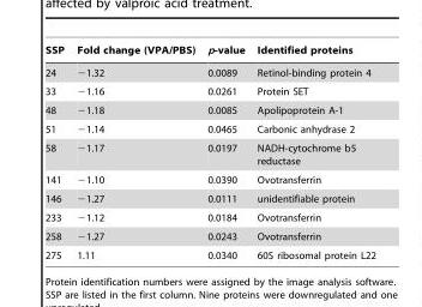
<table><thead><tr><td>SSP</td><td>Fold change (VPA/PBS)</td><td>p-value</td><td>Identified proteins</td></tr></thead><tbody><tr><td>24</td><td>−1.32</td><td>0.0089</td><td>Retinol-binding protein 4</td></tr><tr><td>33</td><td>−1.16</td><td>0.0261</td><td>Protein SET</td></tr><tr><td>48</td><td>−1.18</td><td>0.0085</td><td>Apolipoprotein A-1</td></tr><tr><td>51</td><td>−1.14</td><td>0.0465</td><td>Carbonic anhydrase 2</td></tr><tr><td>58</td><td>−1.17</td><td>0.0197</td><td>NADH-cytochrome b5 reductase</td></tr><tr><td>141</td><td>−1.10</td><td>0.0390</td><td>Ovotransferrin</td></tr><tr><td>146</td><td>−1.27</td><td>0.0111</td><td>unidentifiable protein</td></tr><tr><td>233</td><td>−1.12</td><td>0.0184</td><td>Ovotransferrin</td></tr><tr><td>258</td><td>−1.27</td><td>0.0243</td><td>Ovotransferrin</td></tr><tr><td>275</td><td>1.11</td><td>0.0340</td><td>60S ribosomal protein L22</td></tr></tbody></table>